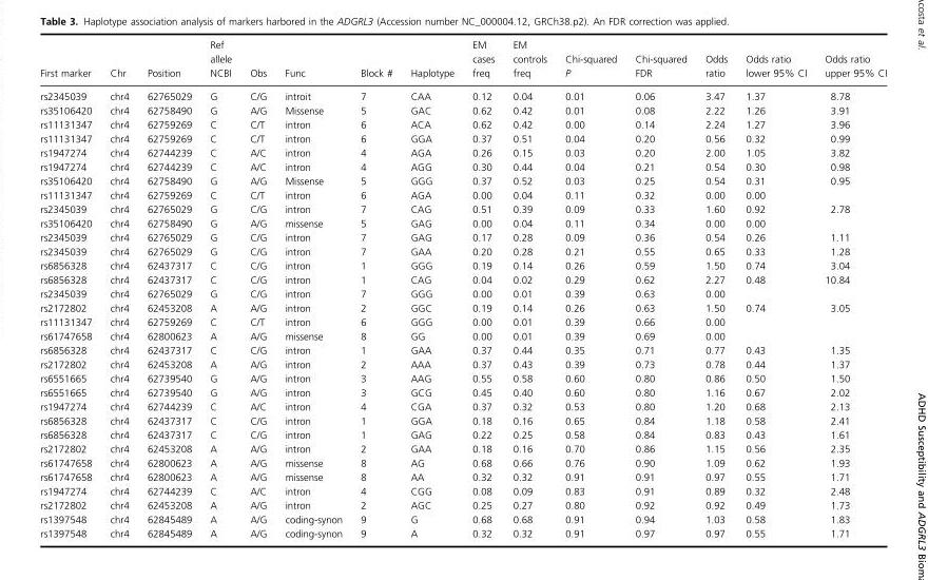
<table><thead><tr><td>First marker</td><td>Chr</td><td>Position</td><td>Ref allele NCBI</td><td>Obs</td><td>Func</td><td>Block #</td><td>Haplotype</td><td>EM cases freq</td><td>EM controls freq</td><td>Chi-squared P</td><td>Chi-squared FDR</td><td>Odds ratio</td><td>Odds ratio lower 95% CI</td><td>Odds ratio upper 95% CI</td></tr></thead><tbody><tr><td>rs2345039</td><td>chr4</td><td>62765029</td><td>G</td><td>C/G</td><td>introit</td><td>7</td><td>CAA</td><td>0.12</td><td>0.04</td><td>0.01</td><td>0.06</td><td>3.47</td><td>1.37</td><td>8.78</td></tr><tr><td>rs35106420</td><td>chr4</td><td>62758490</td><td>G</td><td>A/G</td><td>Missense</td><td>5</td><td>GAC</td><td>0.62</td><td>0.42</td><td>0.01</td><td>0.08</td><td>2.22</td><td>1.26</td><td>3.91</td></tr><tr><td>rs11131347</td><td>chr4</td><td>62759269</td><td>C</td><td>C/T</td><td>intron</td><td>6</td><td>ACA</td><td>0.62</td><td>0.42</td><td>0.00</td><td>0.14</td><td>2.24</td><td>1.27</td><td>3.96</td></tr><tr><td>rs11131347</td><td>chr4</td><td>62759269</td><td>C</td><td>C/T</td><td>intron</td><td>6</td><td>GGA</td><td>0.37</td><td>0.51</td><td>0.04</td><td>0.20</td><td>0.56</td><td>0.32</td><td>0.99</td></tr><tr><td>rs1947274</td><td>chr4</td><td>62744239</td><td>C</td><td>A/C</td><td>intron</td><td>4</td><td>AGA</td><td>0.26</td><td>0.15</td><td>0.03</td><td>0.20</td><td>2.00</td><td>1.05</td><td>3.82</td></tr><tr><td>rs1947274</td><td>chr4</td><td>62744239</td><td>C</td><td>A/C</td><td>intron</td><td>4</td><td>AGG</td><td>0.30</td><td>0.44</td><td>0.04</td><td>0.21</td><td>0.54</td><td>0.30</td><td>0.98</td></tr><tr><td>rs35106420</td><td>chr4</td><td>62758490</td><td>G</td><td>A/G</td><td>Missense</td><td>5</td><td>GGG</td><td>0.37</td><td>0.52</td><td>0.03</td><td>0.25</td><td>0.54</td><td>0.31</td><td>0.95</td></tr><tr><td>rs11131347</td><td>chr4</td><td>62759269</td><td>C</td><td>C/T</td><td>intron</td><td>6</td><td>AGA</td><td>0.00</td><td>0.04</td><td>0.11</td><td>0.32</td><td>0.00</td><td>0.00</td><td></td></tr><tr><td>rs2345039</td><td>chr4</td><td>62765029</td><td>G</td><td>C/G</td><td>intron</td><td>7</td><td>CAG</td><td>0.51</td><td>0.39</td><td>0.09</td><td>0.33</td><td>1.60</td><td>0.92</td><td>2.78</td></tr><tr><td>rs35106420</td><td>chr4</td><td>62758490</td><td>G</td><td>A/G</td><td>missense</td><td>5</td><td>GAG</td><td>0.00</td><td>0.04</td><td>0.11</td><td>0.34</td><td>0.00</td><td>0.00</td><td></td></tr><tr><td>rs2345039</td><td>chr4</td><td>62765029</td><td>G</td><td>C/G</td><td>intron</td><td>7</td><td>GAG</td><td>0.17</td><td>0.28</td><td>0.09</td><td>0.36</td><td>0.54</td><td>0.26</td><td>1.11</td></tr><tr><td>rs2345039</td><td>chr4</td><td>62765029</td><td>G</td><td>C/G</td><td>intron</td><td>7</td><td>GAA</td><td>0.20</td><td>0.28</td><td>0.21</td><td>0.55</td><td>0.65</td><td>0.33</td><td>1.28</td></tr><tr><td>rs6856328</td><td>chr4</td><td>62437317</td><td>C</td><td>C/G</td><td>intron</td><td>1</td><td>GGG</td><td>0.19</td><td>0.14</td><td>0.26</td><td>0.59</td><td>1.50</td><td>0.74</td><td>3.04</td></tr><tr><td>rs6856328</td><td>chr4</td><td>62437317</td><td>C</td><td>C/G</td><td>intron</td><td>1</td><td>CAG</td><td>0.04</td><td>0.02</td><td>0.29</td><td>0.62</td><td>2.27</td><td>0.48</td><td>10.84</td></tr><tr><td>rs2345039</td><td>chr4</td><td>62765029</td><td>G</td><td>C/G</td><td>intron</td><td>7</td><td>GGG</td><td>0.00</td><td>0.01</td><td>0.39</td><td>0.63</td><td>0.00</td><td></td><td></td></tr><tr><td>rs2172802</td><td>chr4</td><td>62453208</td><td>A</td><td>A/G</td><td>intron</td><td>2</td><td>GGC</td><td>0.19</td><td>0.14</td><td>0.26</td><td>0.63</td><td>1.50</td><td>0.74</td><td>3.05</td></tr><tr><td>rs11131347</td><td>chr4</td><td>62759269</td><td>C</td><td>C/T</td><td>intron</td><td>6</td><td>GGG</td><td>0.00</td><td>0.01</td><td>0.39</td><td>0.66</td><td>0.00</td><td></td><td></td></tr><tr><td>rs61747658</td><td>chr4</td><td>62800623</td><td>A</td><td>A/G</td><td>missense</td><td>8</td><td>GG</td><td>0.00</td><td>0.01</td><td>0.39</td><td>0.69</td><td>0.00</td><td></td><td></td></tr><tr><td>rs6856328</td><td>chr4</td><td>62437317</td><td>C</td><td>C/G</td><td>intron</td><td>1</td><td>GAA</td><td>0.37</td><td>0.44</td><td>0.35</td><td>0.71</td><td>0.77</td><td>0.43</td><td>1.35</td></tr><tr><td>rs2172802</td><td>chr4</td><td>62453208</td><td>A</td><td>A/G</td><td>intron</td><td>2</td><td>AAA</td><td>0.37</td><td>0.43</td><td>0.39</td><td>0.73</td><td>0.78</td><td>0.44</td><td>1.37</td></tr><tr><td>rs6551665</td><td>chr4</td><td>62739540</td><td>G</td><td>A/G</td><td>intron</td><td>3</td><td>AAG</td><td>0.55</td><td>0.58</td><td>0.60</td><td>0.80</td><td>0.86</td><td>0.50</td><td>1.50</td></tr><tr><td>rs6551665</td><td>chr4</td><td>62739540</td><td>G</td><td>A/G</td><td>intron</td><td>3</td><td>GCG</td><td>0.45</td><td>0.40</td><td>0.60</td><td>0.80</td><td>1.16</td><td>0.67</td><td>2.02</td></tr><tr><td>rs1947274</td><td>chr4</td><td>62744239</td><td>C</td><td>A/C</td><td>intron</td><td>4</td><td>CGA</td><td>0.37</td><td>0.32</td><td>0.53</td><td>0.80</td><td>1.20</td><td>0.68</td><td>2.13</td></tr><tr><td>rs6856328</td><td>chr4</td><td>62437317</td><td>C</td><td>C/G</td><td>intron</td><td>1</td><td>GGA</td><td>0.18</td><td>0.16</td><td>0.65</td><td>0.84</td><td>1.18</td><td>0.58</td><td>2.41</td></tr><tr><td>rs6856328</td><td>chr4</td><td>62437317</td><td>C</td><td>C/G</td><td>intron</td><td>1</td><td>GAG</td><td>0.22</td><td>0.25</td><td>0.58</td><td>0.84</td><td>0.83</td><td>0.43</td><td>1.61</td></tr><tr><td>rs2172802</td><td>chr4</td><td>62453208</td><td>A</td><td>A/G</td><td>intron</td><td>2</td><td>GAA</td><td>0.18</td><td>0.16</td><td>0.70</td><td>0.86</td><td>1.15</td><td>0.56</td><td>2.35</td></tr><tr><td>rs61747658</td><td>chr4</td><td>62800623</td><td>A</td><td>A/G</td><td>missense</td><td>8</td><td>AG</td><td>0.68</td><td>0.66</td><td>0.76</td><td>0.90</td><td>1.09</td><td>0.62</td><td>1.93</td></tr><tr><td>rs61747658</td><td>chr4</td><td>62800623</td><td>A</td><td>A/G</td><td>missense</td><td>8</td><td>AA</td><td>0.32</td><td>0.32</td><td>0.91</td><td>0.91</td><td>0.97</td><td>0.55</td><td>1.71</td></tr><tr><td>rs1947274</td><td>chr4</td><td>62744239</td><td>C</td><td>A/C</td><td>intron</td><td>4</td><td>CGG</td><td>0.08</td><td>0.09</td><td>0.83</td><td>0.91</td><td>0.89</td><td>0.32</td><td>2.48</td></tr><tr><td>rs2172802</td><td>chr4</td><td>62453208</td><td>A</td><td>A/G</td><td>intron</td><td>2</td><td>AGC</td><td>0.25</td><td>0.27</td><td>0.80</td><td>0.92</td><td>0.92</td><td>0.49</td><td>1.73</td></tr><tr><td>rs1397548</td><td>chr4</td><td>62845489</td><td>A</td><td>A/G</td><td>coding-synon</td><td>9</td><td>G</td><td>0.68</td><td>0.68</td><td>0.91</td><td>0.94</td><td>1.03</td><td>0.58</td><td>1.83</td></tr><tr><td>rs1397548</td><td>chr4</td><td>62845489</td><td>A</td><td>A/G</td><td>coding-synon</td><td>9</td><td>A</td><td>0.32</td><td>0.32</td><td>0.91</td><td>0.97</td><td>0.97</td><td>0.55</td><td>1.71</td></tr></tbody></table>